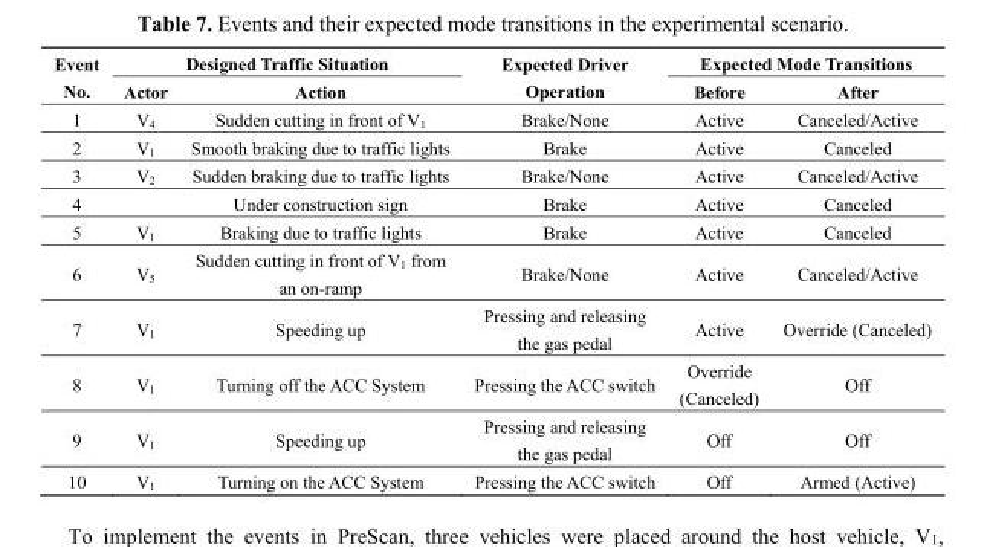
<table><thead><tr><td rowspan="2">Event No.</td><td colspan="2">Designed Traffic Situation</td><td rowspan="2">Expected Driver Operation</td><td colspan="2">Expected Mode Transitions</td></tr><tr><td>Actor</td><td>Action</td><td>Before</td><td>After</td></tr></thead><tbody><tr><td>1</td><td>V<sub>4</sub></td><td>Sudden cutting in front of V<sub>1</sub></td><td>Brake/None</td><td>Active</td><td>Canceled/Active</td></tr><tr><td>2</td><td>V<sub>1</sub></td><td>Smooth braking due to traffic lights</td><td>Brake</td><td>Active</td><td>Canceled</td></tr><tr><td>3</td><td>V<sub>2</sub></td><td>Sudden braking due to traffic lights</td><td>Brake/None</td><td>Active</td><td>Canceled/Active</td></tr><tr><td>4</td><td></td><td>Under construction sign</td><td>Brake</td><td>Active</td><td>Canceled</td></tr><tr><td>5</td><td>V<sub>1</sub></td><td>Braking due to traffic lights</td><td>Brake</td><td>Active</td><td>Canceled</td></tr><tr><td>6</td><td>V<sub>5</sub></td><td>Sudden cutting in front of V<sub>1</sub> from an on-ramp</td><td>Brake/None</td><td>Active</td><td>Canceled/Active</td></tr><tr><td>7</td><td>V<sub>1</sub></td><td>Speeding up</td><td>Pressing and releasing the gas pedal</td><td>Active</td><td>Override (Canceled)</td></tr><tr><td>8</td><td>V<sub>1</sub></td><td>Turning off the ACC System</td><td>Pressing the ACC switch</td><td>Override (Canceled)</td><td>Off</td></tr><tr><td>9</td><td>V<sub>1</sub></td><td>Speeding up</td><td>Pressing and releasing the gas pedal</td><td>Off</td><td>Off</td></tr><tr><td>10</td><td>V<sub>1</sub></td><td>Turning on the ACC System</td><td>Pressing the ACC switch</td><td>Off</td><td>Armed (Active)</td></tr></tbody></table>